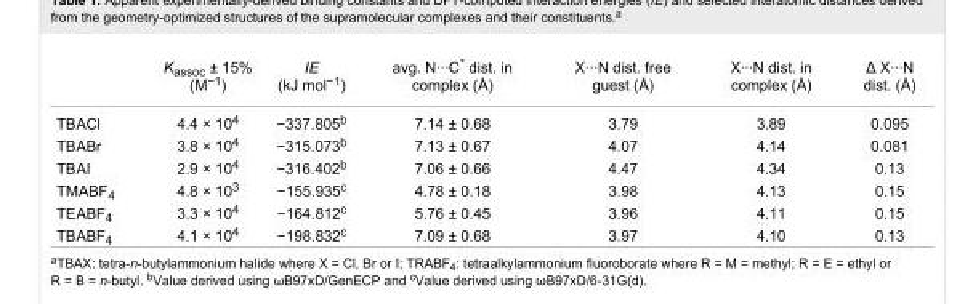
<table><thead><tr><td></td><td>K<sub>assoc</sub> ± 15% (M<sup>−1</sup>)</td><td>IE (kJ mol<sup>−1</sup>)</td><td>avg. N···C* dist. in complex (Å)</td><td>X···N dist. free guest (Å)</td><td>X···N dist. in complex (Å)</td><td>Δ X···N dist. (Å)</td></tr></thead><tbody><tr><td>TBACl</td><td>4.4 × 10<sup>4</sup></td><td>−337.805<sup>b</sup></td><td>7.14 ± 0.68</td><td>3.79</td><td>3.89</td><td>0.095</td></tr><tr><td>TBABr</td><td>3.8 × 10<sup>4</sup></td><td>−315.073<sup>b</sup></td><td>7.13 ± 0.67</td><td>4.07</td><td>4.14</td><td>0.081</td></tr><tr><td>TBAI</td><td>2.9 × 10<sup>4</sup></td><td>−316.402<sup>b</sup></td><td>7.06 ± 0.66</td><td>4.47</td><td>4.34</td><td>0.13</td></tr><tr><td>TMABF<sub>4</sub></td><td>4.8 × 10<sup>3</sup></td><td>−155.935<sup>c</sup></td><td>4.78 ± 0.18</td><td>3.98</td><td>4.13</td><td>0.15</td></tr><tr><td>TEABF<sub>4</sub></td><td>3.3 × 10<sup>4</sup></td><td>−164.812<sup>c</sup></td><td>5.76 ± 0.45</td><td>3.96</td><td>4.11</td><td>0.15</td></tr><tr><td>TBABF<sub>4</sub></td><td>4.1 × 10<sup>4</sup></td><td>−198.832<sup>c</sup></td><td>7.09 ± 0.68</td><td>3.97</td><td>4.10</td><td>0.13</td></tr></tbody></table>